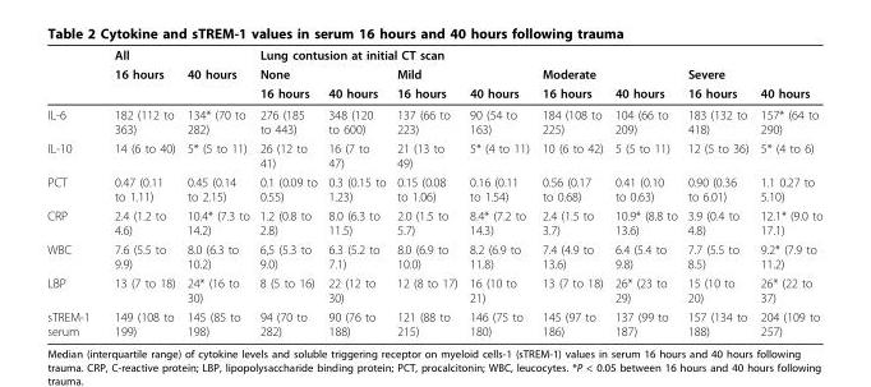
<table><thead><tr><td rowspan="3"></td><td colspan="2">All</td><td colspan="8">Lung contusion at initial CT scan</td></tr><tr><td rowspan="2">16 hours</td><td rowspan="2">40 hours</td><td colspan="2">None</td><td colspan="2">Mild</td><td colspan="2">Moderate</td><td colspan="2">Severe</td></tr><tr><td>16 hours</td><td>40 hours</td><td>16 hours</td><td>40 hours</td><td>16 hours</td><td>40 hours</td><td>16 hours</td><td>40 hours</td></tr></thead><tbody><tr><td>IL-6</td><td>182 (112 to 363)</td><td>134* (70 to 282)</td><td>276 (185 to 443)</td><td>348 (120 to 600)</td><td>137 (66 to 223)</td><td>90 (54 to 163)</td><td>184 (108 to 225)</td><td>104 (66 to 209)</td><td>183 (132 to 418)</td><td>157* (64 to 290)</td></tr><tr><td>IL-10</td><td>14 (6 to 40)</td><td>5* (5 to 11)</td><td>26 (12 to 41)</td><td>16 (7 to 47)</td><td>21 (13 to 49)</td><td>5* (4 to 11)</td><td>10 (6 to 42)</td><td>5 (5 to 11)</td><td>12 (5 to 36)</td><td>5* (4 to 6)</td></tr><tr><td>PCT</td><td>0.47 (0.11 to 1.11)</td><td>0.45 (0.14 to 2.15)</td><td>0.1 (0.09 to 0.55)</td><td>0.3 (0.15 to 1.23)</td><td>0.15 (0.08 to 1.06)</td><td>0.16 (0.11 to 1.54)</td><td>0.56 (0.17 to 0.68)</td><td>0.41 (0.10 to 0.63)</td><td>0.90 (0.36 to 6.01)</td><td>1.1 0.27 to 5.10)</td></tr><tr><td>CRP</td><td>2.4 (1.2 to 4.6)</td><td>10.4* (7.3 to 14.2)</td><td>1.2 (0.8 to 2.8)</td><td>8.0 (6.3 to 11.5)</td><td>2.0 (1.5 to 5.7)</td><td>8.4* (7.2 to 14.3)</td><td>2.4 (1.5 to 3.7)</td><td>10.9* (8.8 to 13.6)</td><td>3.9 (0.4 to 4.8)</td><td>12.1* (9.0 to 17.1)</td></tr><tr><td>WBC</td><td>7.6 (5.5 to 9.9)</td><td>8.0 (6.3 to 10.2)</td><td>6,5 (5.3 to 9.0)</td><td>6.3 (5.2 to 7.1)</td><td>8.0 (6.9 to 10.0)</td><td>8.2 (6.9 to 11.8)</td><td>7.4 (4.9 to 13.6)</td><td>6.4 (5.4 to 9.8)</td><td>7.7 (5.5 to 8.5)</td><td>9.2* (7.9 to 11.2)</td></tr><tr><td>LBP</td><td>13 (7 to 18)</td><td>24* (16 to 30)</td><td>8 (5 to 16)</td><td>22 (12 to 30)</td><td>12 (8 to 17)</td><td>16 (10 to 21)</td><td>13 (7 to 18)</td><td>26* (23 to 29)</td><td>15 (10 to 20)</td><td>26* (22 to 37)</td></tr><tr><td>sTREM-1 serum</td><td>149 (108 to 199)</td><td>145 (85 to 198)</td><td>94 (70 to 282)</td><td>90 (76 to 188)</td><td>121 (88 to 215)</td><td>146 (75 to 180)</td><td>145 (97 to 186)</td><td>137 (99 to 187)</td><td>157 (134 to 188)</td><td>204 (109 to 257)</td></tr></tbody></table>